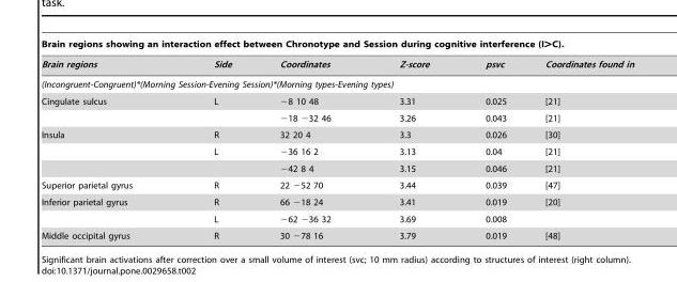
<table><thead><tr><td colspan="6">Brain regions showing an interaction effect between Chronotype and Session during cognitive interference (I&gt;C).</td></tr><tr><td>Brain regions</td><td>Side</td><td>Coordinates</td><td>Z-score</td><td>psvc</td><td>Coordinates found in</td></tr></thead><tbody><tr><td colspan="6">(Incongruent-Congruent)*(Morning Session-Evening Session)*(Morning types-Evening types)</td></tr><tr><td rowspan="2">Cingulate sulcus</td><td>L</td><td>−8 10 48</td><td>3.31</td><td>0.025</td><td>[21]</td></tr><tr><td></td><td>−18 −32 46</td><td>3.26</td><td>0.043</td><td>[21]</td></tr><tr><td rowspan="3">Insula</td><td>R</td><td>32 20 4</td><td>3.3</td><td>0.026</td><td>[30]</td></tr><tr><td>L</td><td>−36 16 2</td><td>3.13</td><td>0.04</td><td>[21]</td></tr><tr><td></td><td>−42 8 4</td><td>3.15</td><td>0.046</td><td>[21]</td></tr><tr><td>Superior parietal gyrus</td><td>R</td><td>22 −52 70</td><td>3.44</td><td>0.039</td><td>[47]</td></tr><tr><td rowspan="2">Inferior parietal gyrus</td><td>R</td><td>66 −18 24</td><td>3.41</td><td>0.019</td><td>[20]</td></tr><tr><td>L</td><td>−62 −36 32</td><td>3.69</td><td>0.008</td><td></td></tr><tr><td>Middle occipital gyrus</td><td>R</td><td>30 −78 16</td><td>3.79</td><td>0.019</td><td>[48]</td></tr></tbody></table>